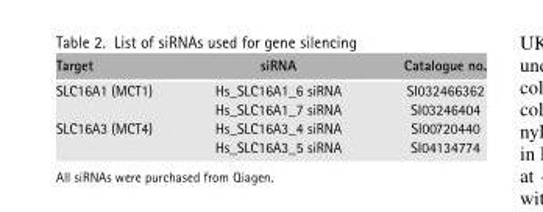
<table><thead><tr><td>Target</td><td>siRNA</td><td>Catalogue no.</td></tr></thead><tbody><tr><td rowspan="2">SLC16A1 (MCT1)</td><td>Hs_SLC16A1_6 siRNA</td><td>SI032466362</td></tr><tr><td>Hs_SLC16A1_7 siRNA</td><td>SI03246404</td></tr><tr><td rowspan="2">SLC16A3 (MCT4)</td><td>Hs_SLC16A3_4 siRNA</td><td>SI00720440</td></tr><tr><td>Hs_SLC16A3_5 siRNA</td><td>SI04134774</td></tr></tbody></table>